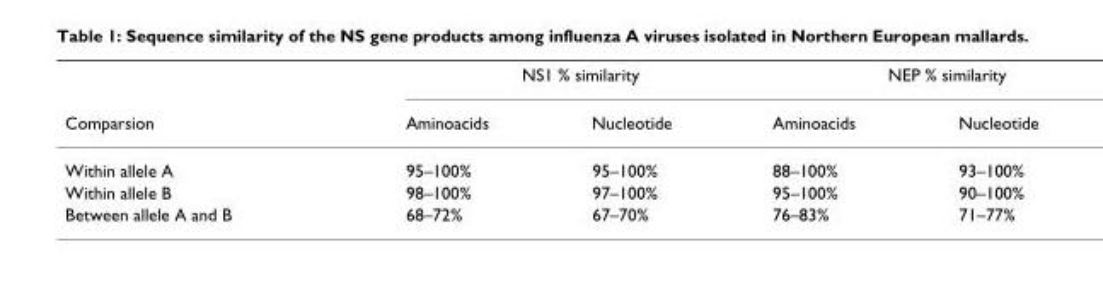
<table><thead><tr><td rowspan="2">Comparsion</td><td colspan="2">NS1 % similarity</td><td colspan="2">NEP % similarity</td></tr><tr><td>Aminoacids</td><td>Nucleotide</td><td>Aminoacids</td><td>Nucleotide</td></tr></thead><tbody><tr><td>Within allele A</td><td>95–100%</td><td>95–100%</td><td>88–100%</td><td>93–100%</td></tr><tr><td>Within allele B</td><td>98–100%</td><td>97–100%</td><td>95–100%</td><td>90–100%</td></tr><tr><td>Between allele A and B</td><td>68–72%</td><td>67–70%</td><td>76–83%</td><td>71–77%</td></tr></tbody></table>